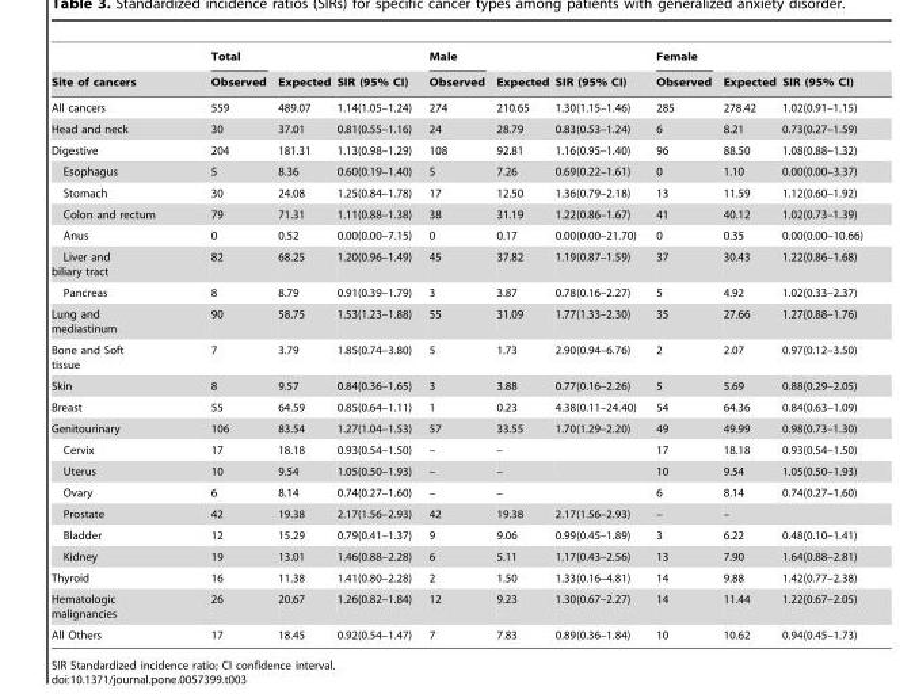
<table><thead><tr><td rowspan="2">Site of cancers</td><td rowspan="2">Total Observed</td><td rowspan="2">Expected</td><td rowspan="2">SIR (95% CI)</td><td rowspan="2">Male Observed</td><td rowspan="2">Expected</td><td rowspan="2">SIR (95% CI)</td><td rowspan="2">Female Observed</td><td rowspan="2">Expected</td><td rowspan="2">SIR (95% CI)</td></tr><tr></tr></thead><tbody><tr><td>All cancers</td><td>559</td><td>489.07</td><td>1.14(1.05–1.24)</td><td>274</td><td>210.65</td><td>1.30(1.15–1.46)</td><td>285</td><td>278.42</td><td>1.02(0.91–1.15)</td></tr><tr><td>Head and neck</td><td>30</td><td>37.01</td><td>0.81(0.55–1.16)</td><td>24</td><td>28.79</td><td>0.83(0.53–1.24)</td><td>6</td><td>8.21</td><td>0.73(0.27–1.59)</td></tr><tr><td>Digestive</td><td>204</td><td>181.31</td><td>1.13(0.98–1.29)</td><td>108</td><td>92.81</td><td>1.16(0.95–1.40)</td><td>96</td><td>88.50</td><td>1.08(0.88–1.32)</td></tr><tr><td>Esophagus</td><td>5</td><td>8.36</td><td>0.60(0.19–1.40)</td><td>5</td><td>7.26</td><td>0.69(0.22–1.61)</td><td>0</td><td>1.10</td><td>0.00(0.00–3.37)</td></tr><tr><td>Stomach</td><td>30</td><td>24.08</td><td>1.25(0.84–1.78)</td><td>17</td><td>12.50</td><td>1.36(0.79–2.18)</td><td>13</td><td>11.59</td><td>1.12(0.60–1.92)</td></tr><tr><td>Colon and rectum</td><td>79</td><td>71.31</td><td>1.11(0.88–1.38)</td><td>38</td><td>31.19</td><td>1.22(0.86–1.67)</td><td>41</td><td>40.12</td><td>1.02(0.73–1.39)</td></tr><tr><td>Anus</td><td>0</td><td>0.52</td><td>0.00(0.00–7.15)</td><td>0</td><td>0.17</td><td>0.00(0.00–21.70)</td><td>0</td><td>0.35</td><td>0.00(0.00–10.66)</td></tr><tr><td>Liver and biliary tract</td><td>82</td><td>68.25</td><td>1.20(0.96–1.49)</td><td>45</td><td>37.82</td><td>1.19(0.87–1.59)</td><td>37</td><td>30.43</td><td>1.22(0.86–1.68)</td></tr><tr><td>Pancreas</td><td>8</td><td>8.79</td><td>0.91(0.39–1.79)</td><td>3</td><td>3.87</td><td>0.78(0.16–2.27)</td><td>5</td><td>4.92</td><td>1.02(0.33–2.37)</td></tr><tr><td>Lung and mediastinum</td><td>90</td><td>58.75</td><td>1.53(1.23–1.88)</td><td>55</td><td>31.09</td><td>1.77(1.33–2.30)</td><td>35</td><td>27.66</td><td>1.27(0.88–1.76)</td></tr><tr><td>Bone and Soft tissue</td><td>7</td><td>3.79</td><td>1.85(0.74–3.80)</td><td>5</td><td>1.73</td><td>2.90(0.94–6.76)</td><td>2</td><td>2.07</td><td>0.97(0.12–3.50)</td></tr><tr><td>Skin</td><td>8</td><td>9.57</td><td>0.84(0.36–1.65)</td><td>3</td><td>3.88</td><td>0.77(0.16–2.26)</td><td>5</td><td>5.69</td><td>0.88(0.29–2.05)</td></tr><tr><td>Breast</td><td>55</td><td>64.59</td><td>0.85(0.64–1.11)</td><td>1</td><td>0.23</td><td>4.38(0.11–24.40)</td><td>54</td><td>64.36</td><td>0.84(0.63–1.09)</td></tr><tr><td>Genitourinary</td><td>106</td><td>83.54</td><td>1.27(1.04–1.53)</td><td>57</td><td>33.55</td><td>1.70(1.29–2.20)</td><td>49</td><td>49.99</td><td>0.98(0.73–1.30)</td></tr><tr><td>Cervix</td><td>17</td><td>18.18</td><td>0.93(0.54–1.50)</td><td>–</td><td>–</td><td></td><td>17</td><td>18.18</td><td>0.93(0.54–1.50)</td></tr><tr><td>Uterus</td><td>10</td><td>9.54</td><td>1.05(0.50–1.93)</td><td>–</td><td>–</td><td></td><td>10</td><td>9.54</td><td>1.05(0.50–1.93)</td></tr><tr><td>Ovary</td><td>6</td><td>8.14</td><td>0.74(0.27–1.60)</td><td>–</td><td>–</td><td></td><td>6</td><td>8.14</td><td>0.74(0.27–1.60)</td></tr><tr><td>Prostate</td><td>42</td><td>19.38</td><td>2.17(1.56–2.93)</td><td>42</td><td>19.38</td><td>2.17(1.56–2.93)</td><td>–</td><td>–</td><td></td></tr><tr><td>Bladder</td><td>12</td><td>15.29</td><td>0.79(0.41–1.37)</td><td>9</td><td>9.06</td><td>0.99(0.45–1.89)</td><td>3</td><td>6.22</td><td>0.48(0.10–1.41)</td></tr><tr><td>Kidney</td><td>19</td><td>13.01</td><td>1.46(0.88–2.28)</td><td>6</td><td>5.11</td><td>1.17(0.43–2.56)</td><td>13</td><td>7.90</td><td>1.64(0.88–2.81)</td></tr><tr><td>Thyroid</td><td>16</td><td>11.38</td><td>1.41(0.80–2.28)</td><td>2</td><td>1.50</td><td>1.33(0.16–4.81)</td><td>14</td><td>9.88</td><td>1.42(0.77–2.38)</td></tr><tr><td>Hematologic malignancies</td><td>26</td><td>20.67</td><td>1.26(0.82–1.84)</td><td>12</td><td>9.23</td><td>1.30(0.67–2.27)</td><td>14</td><td>11.44</td><td>1.22(0.67–2.05)</td></tr><tr><td>All Others</td><td>17</td><td>18.45</td><td>0.92(0.54–1.47)</td><td>7</td><td>7.83</td><td>0.89(0.36–1.84)</td><td>10</td><td>10.62</td><td>0.94(0.45–1.73)</td></tr></tbody></table>